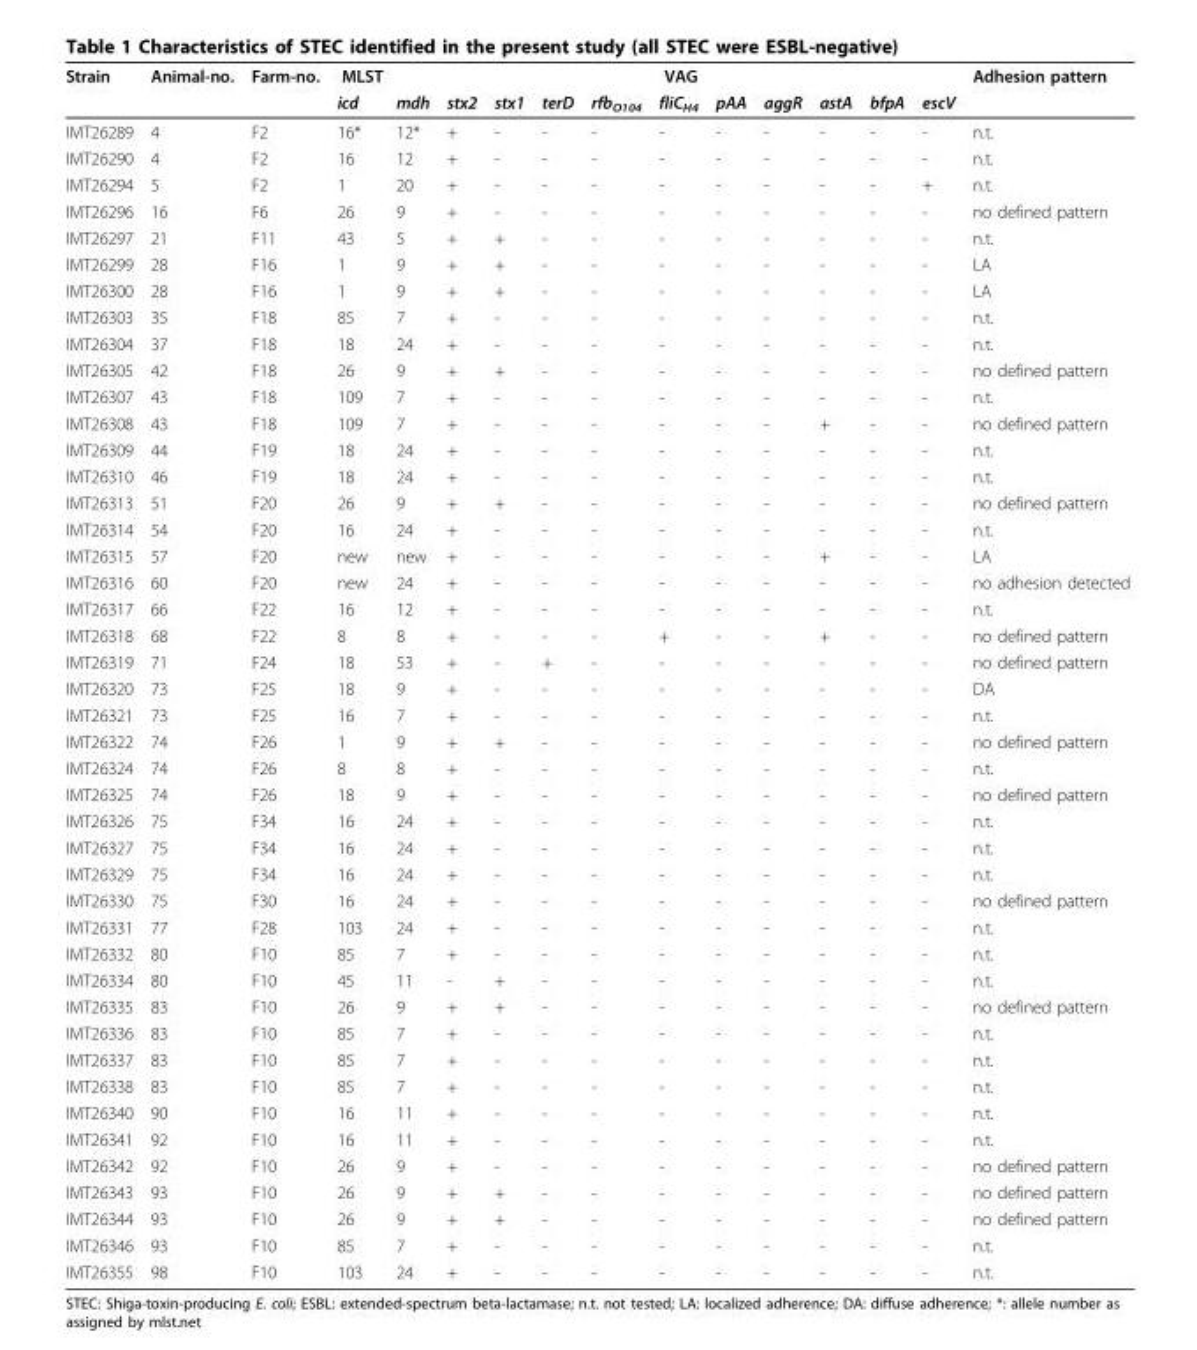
<table><thead><tr><td rowspan="2">Strain</td><td rowspan="2">Animal-no.</td><td rowspan="2">Farm-no.</td><td rowspan="2">MLST icd</td><td rowspan="2">mdh</td><td rowspan="2">stx2</td><td rowspan="2">stx1</td><td rowspan="2">terD</td><td rowspan="2">rfb<sub>O104</sub></td><td rowspan="2">VAG fliC<sub>H4</sub></td><td rowspan="2">pAA</td><td rowspan="2">aggR</td><td rowspan="2">astA</td><td rowspan="2">bfpA</td><td rowspan="2">escV</td><td rowspan="2">Adhesion pattern</td></tr><tr></tr></thead><tbody><tr><td>IMT26289</td><td>4</td><td>F2</td><td>16*</td><td>12*</td><td>+</td><td>-</td><td>-</td><td>-</td><td>-</td><td>-</td><td>-</td><td>-</td><td>-</td><td>-</td><td>n.t.</td></tr><tr><td>IMT26290</td><td>4</td><td>F2</td><td>16</td><td>12</td><td>+</td><td>-</td><td>-</td><td>-</td><td>-</td><td>-</td><td>-</td><td>-</td><td>-</td><td>-</td><td>n.t.</td></tr><tr><td>IMT26294</td><td>5</td><td>F2</td><td>1</td><td>20</td><td>+</td><td>-</td><td>-</td><td>-</td><td>-</td><td>-</td><td>-</td><td>-</td><td>-</td><td>+</td><td>n.t.</td></tr><tr><td>IMT26296</td><td>16</td><td>F6</td><td>26</td><td>9</td><td>+</td><td>-</td><td>-</td><td>-</td><td>-</td><td>-</td><td>-</td><td>-</td><td>-</td><td>-</td><td>no defined pattern</td></tr><tr><td>IMT26297</td><td>21</td><td>F11</td><td>43</td><td>5</td><td>+</td><td>+</td><td>-</td><td>-</td><td>-</td><td>-</td><td>-</td><td>-</td><td>-</td><td>-</td><td>n.t.</td></tr><tr><td>IMT26299</td><td>28</td><td>F16</td><td>1</td><td>9</td><td>+</td><td>+</td><td>-</td><td>-</td><td>-</td><td>-</td><td>-</td><td>-</td><td>-</td><td>-</td><td>LA</td></tr><tr><td>IMT26300</td><td>28</td><td>F16</td><td>1</td><td>9</td><td>+</td><td>+</td><td>-</td><td>-</td><td>-</td><td>-</td><td>-</td><td>-</td><td>-</td><td>-</td><td>LA</td></tr><tr><td>IMT26303</td><td>35</td><td>F18</td><td>85</td><td>7</td><td>+</td><td>-</td><td>-</td><td>-</td><td>-</td><td>-</td><td>-</td><td>-</td><td>-</td><td>-</td><td>n.t.</td></tr><tr><td>IMT26304</td><td>37</td><td>F18</td><td>18</td><td>24</td><td>+</td><td>-</td><td>-</td><td>-</td><td>-</td><td>-</td><td>-</td><td>-</td><td>-</td><td>-</td><td>n.t.</td></tr><tr><td>IMT26305</td><td>42</td><td>F18</td><td>26</td><td>9</td><td>+</td><td>+</td><td>-</td><td>-</td><td>-</td><td>-</td><td>-</td><td>-</td><td>-</td><td>-</td><td>no defined pattern</td></tr><tr><td>IMT26307</td><td>43</td><td>F18</td><td>109</td><td>7</td><td>+</td><td>-</td><td>-</td><td>-</td><td>-</td><td>-</td><td>-</td><td>-</td><td>-</td><td>-</td><td>n.t.</td></tr><tr><td>IMT26308</td><td>43</td><td>F18</td><td>109</td><td>7</td><td>+</td><td>-</td><td>-</td><td>-</td><td>-</td><td>-</td><td>-</td><td>+</td><td>-</td><td>-</td><td>no defined pattern</td></tr><tr><td>IMT26309</td><td>44</td><td>F19</td><td>18</td><td>24</td><td>+</td><td>-</td><td>-</td><td>-</td><td>-</td><td>-</td><td>-</td><td>-</td><td>-</td><td>-</td><td>n.t.</td></tr><tr><td>IMT26310</td><td>46</td><td>F19</td><td>18</td><td>24</td><td>+</td><td>-</td><td>-</td><td>-</td><td>-</td><td>-</td><td>-</td><td>-</td><td>-</td><td>-</td><td>n.t.</td></tr><tr><td>IMT26313</td><td>51</td><td>F20</td><td>26</td><td>9</td><td>+</td><td>+</td><td>-</td><td>-</td><td>-</td><td>-</td><td>-</td><td>-</td><td>-</td><td>-</td><td>no defined pattern</td></tr><tr><td>IMT26314</td><td>54</td><td>F20</td><td>16</td><td>24</td><td>+</td><td>-</td><td>-</td><td>-</td><td>-</td><td>-</td><td>-</td><td>-</td><td>-</td><td>-</td><td>n.t.</td></tr><tr><td>IMT26315</td><td>57</td><td>F20</td><td>new</td><td>new</td><td>+</td><td>-</td><td>-</td><td>-</td><td>-</td><td>-</td><td>-</td><td>+</td><td>-</td><td>-</td><td>LA</td></tr><tr><td>IMT26316</td><td>60</td><td>F20</td><td>new</td><td>24</td><td>+</td><td>-</td><td>-</td><td>-</td><td>-</td><td>-</td><td>-</td><td>-</td><td>-</td><td>-</td><td>no adhesion detected</td></tr><tr><td>IMT26317</td><td>66</td><td>F22</td><td>16</td><td>12</td><td>+</td><td>-</td><td>-</td><td>-</td><td>-</td><td>-</td><td>-</td><td>-</td><td>-</td><td>-</td><td>n.t.</td></tr><tr><td>IMT26318</td><td>68</td><td>F22</td><td>8</td><td>8</td><td>+</td><td>-</td><td>-</td><td>-</td><td>+</td><td>-</td><td>-</td><td>+</td><td>-</td><td>-</td><td>no defined pattern</td></tr><tr><td>IMT26319</td><td>71</td><td>F24</td><td>18</td><td>53</td><td>+</td><td>-</td><td>+</td><td>-</td><td>-</td><td>-</td><td>-</td><td>-</td><td>-</td><td>-</td><td>no defined pattern</td></tr><tr><td>IMT26320</td><td>73</td><td>F25</td><td>18</td><td>9</td><td>+</td><td>-</td><td>-</td><td>-</td><td>-</td><td>-</td><td>-</td><td>-</td><td>-</td><td>-</td><td>DA</td></tr><tr><td>IMT26321</td><td>73</td><td>F25</td><td>16</td><td>7</td><td>+</td><td>-</td><td>-</td><td>-</td><td>-</td><td>-</td><td>-</td><td>-</td><td>-</td><td>-</td><td>n.t.</td></tr><tr><td>IMT26322</td><td>74</td><td>F26</td><td>1</td><td>9</td><td>+</td><td>+</td><td>-</td><td>-</td><td>-</td><td>-</td><td>-</td><td>-</td><td>-</td><td>-</td><td>no defined pattern</td></tr><tr><td>IMT26324</td><td>74</td><td>F26</td><td>8</td><td>8</td><td>+</td><td>-</td><td>-</td><td>-</td><td>-</td><td>-</td><td>-</td><td>-</td><td>-</td><td>-</td><td>n.t.</td></tr><tr><td>IMT26325</td><td>74</td><td>F26</td><td>18</td><td>9</td><td>+</td><td>-</td><td>-</td><td>-</td><td>-</td><td>-</td><td>-</td><td>-</td><td>-</td><td>-</td><td>no defined pattern</td></tr><tr><td>IMT26326</td><td>75</td><td>F34</td><td>16</td><td>24</td><td>+</td><td>-</td><td>-</td><td>-</td><td>-</td><td>-</td><td>-</td><td>-</td><td>-</td><td>-</td><td>n.t.</td></tr><tr><td>IMT26327</td><td>75</td><td>F34</td><td>16</td><td>24</td><td>+</td><td>-</td><td>-</td><td>-</td><td>-</td><td>-</td><td>-</td><td>-</td><td>-</td><td>-</td><td>n.t.</td></tr><tr><td>IMT26329</td><td>75</td><td>F34</td><td>16</td><td>24</td><td>+</td><td>-</td><td>-</td><td>-</td><td>-</td><td>-</td><td>-</td><td>-</td><td>-</td><td>-</td><td>n.t.</td></tr><tr><td>IMT26330</td><td>75</td><td>F30</td><td>16</td><td>24</td><td>+</td><td>-</td><td>-</td><td>-</td><td>-</td><td>-</td><td>-</td><td>-</td><td>-</td><td>-</td><td>no defined pattern</td></tr><tr><td>IMT26331</td><td>77</td><td>F28</td><td>103</td><td>24</td><td>+</td><td>-</td><td>-</td><td>-</td><td>-</td><td>-</td><td>-</td><td>-</td><td>-</td><td>-</td><td>n.t.</td></tr><tr><td>IMT26332</td><td>80</td><td>F10</td><td>85</td><td>7</td><td>+</td><td>-</td><td>-</td><td>-</td><td>-</td><td>-</td><td>-</td><td>-</td><td>-</td><td>-</td><td>n.t.</td></tr><tr><td>IMT26334</td><td>80</td><td>F10</td><td>45</td><td>11</td><td>-</td><td>+</td><td>-</td><td>-</td><td>-</td><td>-</td><td>-</td><td>-</td><td>-</td><td>-</td><td>n.t.</td></tr><tr><td>IMT26335</td><td>83</td><td>F10</td><td>26</td><td>9</td><td>+</td><td>+</td><td>-</td><td>-</td><td>-</td><td>-</td><td>-</td><td>-</td><td>-</td><td>-</td><td>no defined pattern</td></tr><tr><td>IMT26336</td><td>83</td><td>F10</td><td>85</td><td>7</td><td>+</td><td>-</td><td>-</td><td>-</td><td>-</td><td>-</td><td>-</td><td>-</td><td>-</td><td>-</td><td>n.t.</td></tr><tr><td>IMT26337</td><td>83</td><td>F10</td><td>85</td><td>7</td><td>+</td><td>-</td><td>-</td><td>-</td><td>-</td><td>-</td><td>-</td><td>-</td><td>-</td><td>-</td><td>n.t.</td></tr><tr><td>IMT26338</td><td>83</td><td>F10</td><td>85</td><td>7</td><td>+</td><td>-</td><td>-</td><td>-</td><td>-</td><td>-</td><td>-</td><td>-</td><td>-</td><td>-</td><td>n.t.</td></tr><tr><td>IMT26340</td><td>90</td><td>F10</td><td>16</td><td>11</td><td>+</td><td>-</td><td>-</td><td>-</td><td>-</td><td>-</td><td>-</td><td>-</td><td>-</td><td>-</td><td>n.t.</td></tr><tr><td>IMT26341</td><td>92</td><td>F10</td><td>16</td><td>11</td><td>+</td><td>-</td><td>-</td><td>-</td><td>-</td><td>-</td><td>-</td><td>-</td><td>-</td><td>-</td><td>n.t.</td></tr><tr><td>IMT26342</td><td>92</td><td>F10</td><td>26</td><td>9</td><td>+</td><td>-</td><td>-</td><td>-</td><td>-</td><td>-</td><td>-</td><td>-</td><td>-</td><td>-</td><td>no defined pattern</td></tr><tr><td>IMT26343</td><td>93</td><td>F10</td><td>26</td><td>9</td><td>+</td><td>+</td><td>-</td><td>-</td><td>-</td><td>-</td><td>-</td><td>-</td><td>-</td><td>-</td><td>no defined pattern</td></tr><tr><td>IMT26344</td><td>93</td><td>F10</td><td>26</td><td>9</td><td>+</td><td>+</td><td>-</td><td>-</td><td>-</td><td>-</td><td>-</td><td>-</td><td>-</td><td>-</td><td>no defined pattern</td></tr><tr><td>IMT26346</td><td>93</td><td>F10</td><td>85</td><td>7</td><td>+</td><td>-</td><td>-</td><td>-</td><td>-</td><td>-</td><td>-</td><td>-</td><td>-</td><td>-</td><td>n.t.</td></tr><tr><td>IMT26355</td><td>98</td><td>F10</td><td>103</td><td>24</td><td>+</td><td>-</td><td>-</td><td>-</td><td>-</td><td>-</td><td>-</td><td>-</td><td>-</td><td>-</td><td>n.t.</td></tr></tbody></table>